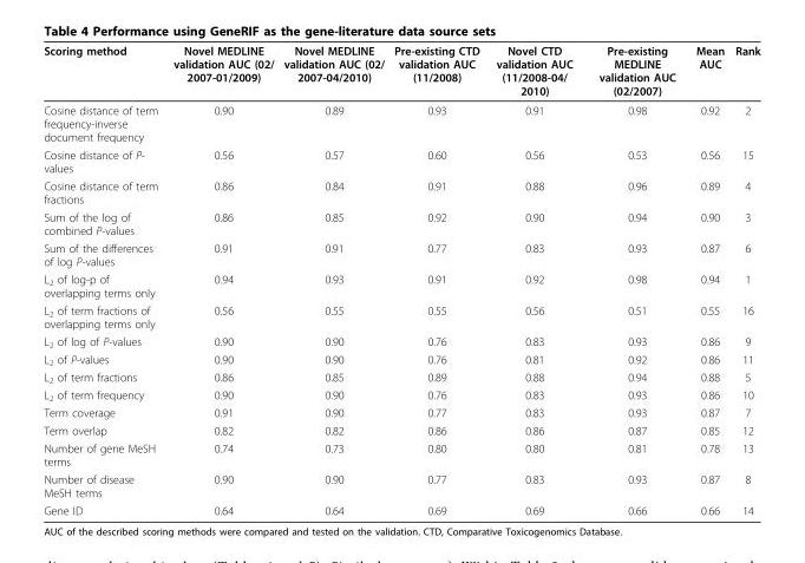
<table><thead><tr><td>Scoring method</td><td>Novel MEDLINE validation AUC (02/ 2007-01/2009)</td><td>Novel MEDLINE validation AUC (02/ 2007-04/2010)</td><td>Pre-existing CTD validation AUC (11/2008)</td><td>Novel CTD validation AUC (11/2008-04/ 2010)</td><td>Pre-existing MEDLINE validation AUC (02/2007)</td><td>Mean AUC</td><td>Rank</td></tr></thead><tbody><tr><td>Cosine distance of term frequency-inverse document frequency</td><td>0.90</td><td>0.89</td><td>0.93</td><td>0.91</td><td>0.98</td><td>0.92</td><td>2</td></tr><tr><td>Cosine distance of P- values</td><td>0.56</td><td>0.57</td><td>0.60</td><td>0.56</td><td>0.53</td><td>0.56</td><td>15</td></tr><tr><td>Cosine distance of term fractions</td><td>0.86</td><td>0.84</td><td>0.91</td><td>0.88</td><td>0.96</td><td>0.89</td><td>4</td></tr><tr><td>Sum of the log of combined P-values</td><td>0.86</td><td>0.85</td><td>0.92</td><td>0.90</td><td>0.94</td><td>0.90</td><td>3</td></tr><tr><td>Sum of the differences of log P-values</td><td>0.91</td><td>0.91</td><td>0.77</td><td>0.83</td><td>0.93</td><td>0.87</td><td>6</td></tr><tr><td>L<sub>2</sub> of log-p of overlapping terms only</td><td>0.94</td><td>0.93</td><td>0.91</td><td>0.92</td><td>0.98</td><td>0.94</td><td>1</td></tr><tr><td>L<sub>2</sub> of term fractions of overlapping terms only</td><td>0.56</td><td>0.55</td><td>0.55</td><td>0.56</td><td>0.51</td><td>0.55</td><td>16</td></tr><tr><td>L<sub>2</sub> of log of P-values</td><td>0.90</td><td>0.90</td><td>0.76</td><td>0.83</td><td>0.93</td><td>0.86</td><td>9</td></tr><tr><td>L<sub>2</sub> of P-values</td><td>0.90</td><td>0.90</td><td>0.76</td><td>0.81</td><td>0.92</td><td>0.86</td><td>11</td></tr><tr><td>L<sub>2</sub> of term fractions</td><td>0.86</td><td>0.85</td><td>0.89</td><td>0.88</td><td>0.94</td><td>0.88</td><td>5</td></tr><tr><td>L<sub>2</sub> of term frequency</td><td>0.90</td><td>0.90</td><td>0.76</td><td>0.83</td><td>0.93</td><td>0.86</td><td>10</td></tr><tr><td>Term coverage</td><td>0.91</td><td>0.90</td><td>0.77</td><td>0.83</td><td>0.93</td><td>0.87</td><td>7</td></tr><tr><td>Term overlap</td><td>0.82</td><td>0.82</td><td>0.86</td><td>0.86</td><td>0.87</td><td>0.85</td><td>12</td></tr><tr><td>Number of gene MeSH terms</td><td>0.74</td><td>0.73</td><td>0.80</td><td>0.80</td><td>0.81</td><td>0.78</td><td>13</td></tr><tr><td>Number of disease MeSH terms</td><td>0.90</td><td>0.90</td><td>0.77</td><td>0.83</td><td>0.93</td><td>0.87</td><td>8</td></tr><tr><td>Gene ID</td><td>0.64</td><td>0.64</td><td>0.69</td><td>0.69</td><td>0.66</td><td>0.66</td><td>14</td></tr></tbody></table>